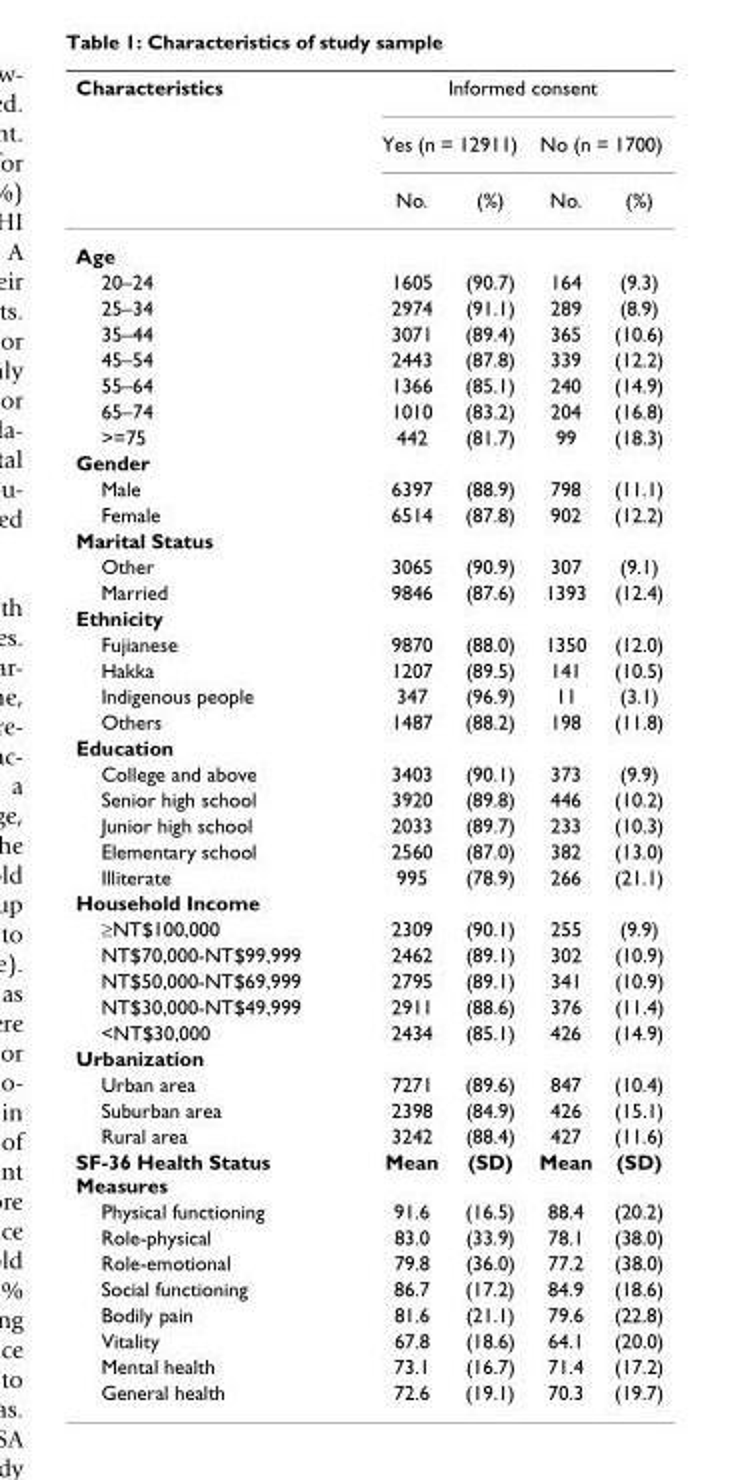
<table><thead><tr><td rowspan="3">Characteristics</td><td colspan="4">Informed consent</td></tr><tr><td colspan="2">Yes (n = 12911)</td><td colspan="2">No (n = 1700)</td></tr><tr><td>No.</td><td>(%)</td><td>No.</td><td>(%)</td></tr></thead><tbody><tr><td colspan="5">Age</td></tr><tr><td>20–24</td><td>1605</td><td>(90.7)</td><td>164</td><td>(9.3)</td></tr><tr><td>25–34</td><td>2974</td><td>(91.1)</td><td>289</td><td>(8.9)</td></tr><tr><td>35–44</td><td>3071</td><td>(89.4)</td><td>365</td><td>(10.6)</td></tr><tr><td>45–54</td><td>2443</td><td>(87.8)</td><td>339</td><td>(12.2)</td></tr><tr><td>55–64</td><td>1366</td><td>(85.1)</td><td>240</td><td>(14.9)</td></tr><tr><td>65–74</td><td>1010</td><td>(83.2)</td><td>204</td><td>(16.8)</td></tr><tr><td>&gt;=75</td><td>442</td><td>(81.7)</td><td>99</td><td>(18.3)</td></tr><tr><td colspan="5">Gender</td></tr><tr><td>Male</td><td>6397</td><td>(88.9)</td><td>798</td><td>(11.1)</td></tr><tr><td>Female</td><td>6514</td><td>(87.8)</td><td>902</td><td>(12.2)</td></tr><tr><td colspan="5">Marital Status</td></tr><tr><td>Other</td><td>3065</td><td>(90.9)</td><td>307</td><td>(9.1)</td></tr><tr><td>Married</td><td>9846</td><td>(87.6)</td><td>1393</td><td>(12.4)</td></tr><tr><td colspan="5">Ethnicity</td></tr><tr><td>Fujianese</td><td>9870</td><td>(88.0)</td><td>1350</td><td>(12.0)</td></tr><tr><td>Hakka</td><td>1207</td><td>(89.5)</td><td>141</td><td>(10.5)</td></tr><tr><td>Indigenous people</td><td>347</td><td>(96.9)</td><td>11</td><td>(3.1)</td></tr><tr><td>Others</td><td>1487</td><td>(88.2)</td><td>198</td><td>(11.8)</td></tr><tr><td colspan="5">Education</td></tr><tr><td>College and above</td><td>3403</td><td>(90.1)</td><td>373</td><td>(9.9)</td></tr><tr><td>Senior high school</td><td>3920</td><td>(89.8)</td><td>446</td><td>(10.2)</td></tr><tr><td>Junior high school</td><td>2033</td><td>(89.7)</td><td>233</td><td>(10.3)</td></tr><tr><td>Elementary school</td><td>2560</td><td>(87.0)</td><td>382</td><td>(13.0)</td></tr><tr><td>Illiterate</td><td>995</td><td>(78.9)</td><td>266</td><td>(21.1)</td></tr><tr><td colspan="5">Household Income</td></tr><tr><td>≥NT$100,000</td><td>2309</td><td>(90.1)</td><td>255</td><td>(9.9)</td></tr><tr><td>NT$70,000-NT$99,999</td><td>2462</td><td>(89.1)</td><td>302</td><td>(10.9)</td></tr><tr><td>NT$50,000-NT$69,999</td><td>2795</td><td>(89.1)</td><td>341</td><td>(10.9)</td></tr><tr><td>NT$30,000-NT$49,999</td><td>2911</td><td>(88.6)</td><td>376</td><td>(11.4)</td></tr><tr><td>&lt;NT$30,000</td><td>2434</td><td>(85.1)</td><td>426</td><td>(14.9)</td></tr><tr><td colspan="5">Urbanization</td></tr><tr><td>Urban area</td><td>7271</td><td>(89.6)</td><td>847</td><td>(10.4)</td></tr><tr><td>Suburban area</td><td>2398</td><td>(84.9)</td><td>426</td><td>(15.1)</td></tr><tr><td>Rural area</td><td>3242</td><td>(88.4)</td><td>427</td><td>(11.6)</td></tr><tr><td>SF-36 Health Status Measures</td><td>Mean</td><td>(SD)</td><td>Mean</td><td>(SD)</td></tr><tr><td>Physical functioning</td><td>91.6</td><td>(16.5)</td><td>88.4</td><td>(20.2)</td></tr><tr><td>Role-physical</td><td>83.0</td><td>(33.9)</td><td>78.1</td><td>(38.0)</td></tr><tr><td>Role-emotional</td><td>79.8</td><td>(36.0)</td><td>77.2</td><td>(38.0)</td></tr><tr><td>Social functioning</td><td>86.7</td><td>(17.2)</td><td>84.9</td><td>(18.6)</td></tr><tr><td>Bodily pain</td><td>81.6</td><td>(21.1)</td><td>79.6</td><td>(22.8)</td></tr><tr><td>Vitality</td><td>67.8</td><td>(18.6)</td><td>64.1</td><td>(20.0)</td></tr><tr><td>Mental health</td><td>73.1</td><td>(16.7)</td><td>71.4</td><td>(17.2)</td></tr><tr><td>General health</td><td>72.6</td><td>(19.1)</td><td>70.3</td><td>(19.7)</td></tr></tbody></table>